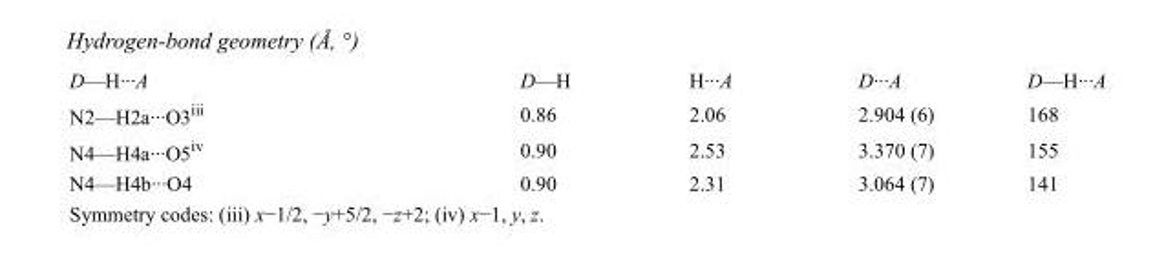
<table><tbody><tr><td>D—H···A</td><td>D—H</td><td>H···A</td><td>D···A</td><td>D—H···A</td></tr><tr><td>N2—H2a···O3<sup>iii</sup></td><td>0.86</td><td>2.06</td><td>2.904 (6)</td><td>168</td></tr><tr><td>N4—H4a···O5<sup>iv</sup></td><td>0.90</td><td>2.53</td><td>3.370 (7)</td><td>155</td></tr><tr><td>N4—H4b···O4</td><td>0.90</td><td>2.31</td><td>3.064 (7)</td><td>141</td></tr></tbody></table>